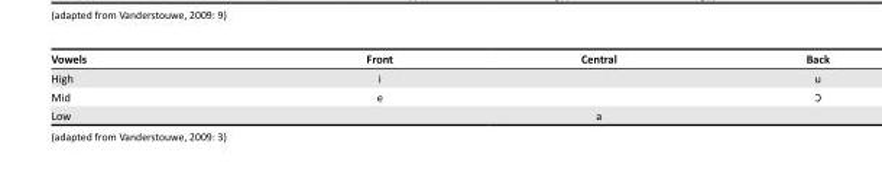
<table><thead><tr><td>Vowels</td><td>Front</td><td>Central</td><td>Back</td></tr></thead><tbody><tr><td>High</td><td>i</td><td></td><td>u</td></tr><tr><td>Mid</td><td>e</td><td></td><td>Ɔ</td></tr><tr><td>Low</td><td></td><td>a</td><td></td></tr></tbody></table>